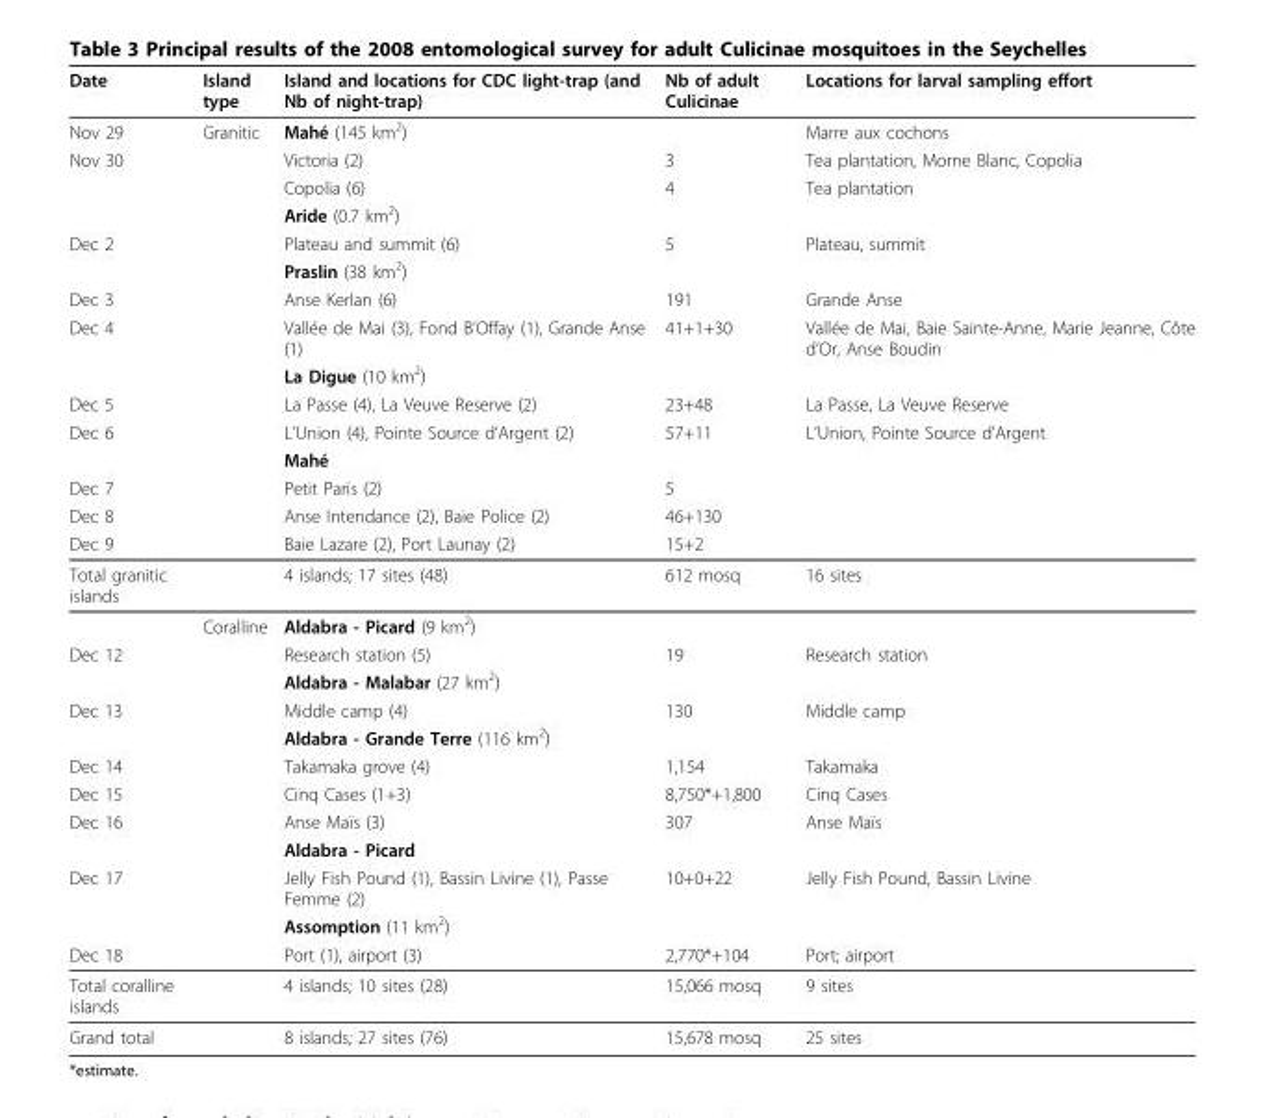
<table><thead><tr><td>Date</td><td>Island type</td><td>Island and locations for CDC light-trap (and Nb of night-trap)</td><td>Nb of adult Culicinae</td><td>Locations for larval sampling effort</td></tr></thead><tbody><tr><td>Nov 29</td><td>Granitic</td><td>Mahé (145 km<sup>2</sup>)</td><td></td><td>Marre aux cochons</td></tr><tr><td rowspan="3">Nov 30</td><td></td><td>Victoria (2)</td><td>3</td><td>Tea plantation, Morne Blanc, Copolia</td></tr><tr><td></td><td>Copolia (6)</td><td>4</td><td>Tea plantation</td></tr><tr><td></td><td>Aride (0.7 km<sup>2</sup>)</td><td></td><td></td></tr><tr><td rowspan="2">Dec 2</td><td></td><td>Plateau and summit (6)</td><td>5</td><td>Plateau, summit</td></tr><tr><td></td><td>Praslin (38 km<sup>2</sup>)</td><td></td><td></td></tr><tr><td>Dec 3</td><td></td><td>Anse Kerlan (6)</td><td>191</td><td>Grande Anse</td></tr><tr><td rowspan="2">Dec 4</td><td></td><td>Vallée de Mai (3), Fond B’Offay (1), Grande Anse (1)</td><td>41+1+30</td><td>Vallée de Mai, Baie Sainte-Anne, Marie Jeanne, Côte d’Or, Anse Boudin</td></tr><tr><td></td><td>La Digue (10 km<sup>2</sup>)</td><td></td><td></td></tr><tr><td>Dec 5</td><td></td><td>La Passe (4), La Veuve Reserve (2)</td><td>23+48</td><td>La Passe, La Veuve Reserve</td></tr><tr><td rowspan="2">Dec 6</td><td></td><td>L’Union (4), Pointe Source d’Argent (2)</td><td>57+11</td><td>L’Union, Pointe Source d’Argent</td></tr><tr><td></td><td>Mahé</td><td></td><td></td></tr><tr><td>Dec 7</td><td></td><td>Petit Paris (2)</td><td>5</td><td></td></tr><tr><td>Dec 8</td><td></td><td>Anse Intendance (2), Baie Police (2)</td><td>46+130</td><td></td></tr><tr><td>Dec 9</td><td></td><td>Baie Lazare (2), Port Launay (2)</td><td>15+2</td><td></td></tr><tr><td rowspan="2">Total granitic islands</td><td></td><td>4 islands; 17 sites (48)</td><td>612 mosq</td><td>16 sites</td></tr><tr><td>Coralline</td><td>Aldabra - Picard (9 km<sup>2</sup>)</td><td></td><td></td></tr><tr><td rowspan="2">Dec 12</td><td></td><td>Research station (5)</td><td>19</td><td>Research station</td></tr><tr><td></td><td>Aldabra - Malabar (27 km<sup>2</sup>)</td><td></td><td></td></tr><tr><td rowspan="2">Dec 13</td><td></td><td>Middle camp (4)</td><td>130</td><td>Middle camp</td></tr><tr><td></td><td>Aldabra - Grande Terre (116 km<sup>2</sup>)</td><td></td><td></td></tr><tr><td>Dec 14</td><td></td><td>Takamaka grove (4)</td><td>1,154</td><td>Takamaka</td></tr><tr><td>Dec 15</td><td></td><td>Cinq Cases (1+3)</td><td>8,750*+1,800</td><td>Cinq Cases</td></tr><tr><td rowspan="2">Dec 16</td><td></td><td>Anse Maïs (3)</td><td>307</td><td>Anse Maïs</td></tr><tr><td></td><td>Aldabra - Picard</td><td></td><td></td></tr><tr><td rowspan="2">Dec 17</td><td></td><td>Jelly Fish Pound (1), Bassin Livine (1), Passe Femme (2)</td><td>10+0+22</td><td>Jelly Fish Pound, Bassin Livine</td></tr><tr><td></td><td>Assomption (11 km<sup>2</sup>)</td><td></td><td></td></tr><tr><td>Dec 18</td><td></td><td>Port (1), airport (3)</td><td>2,770*+104</td><td>Port; airport</td></tr><tr><td>Total coralline islands</td><td></td><td>4 islands; 10 sites (28)</td><td>15,066 mosq</td><td>9 sites</td></tr><tr><td>Grand total</td><td></td><td>8 islands; 27 sites (76)</td><td>15,678 mosq</td><td>25 sites</td></tr></tbody></table>